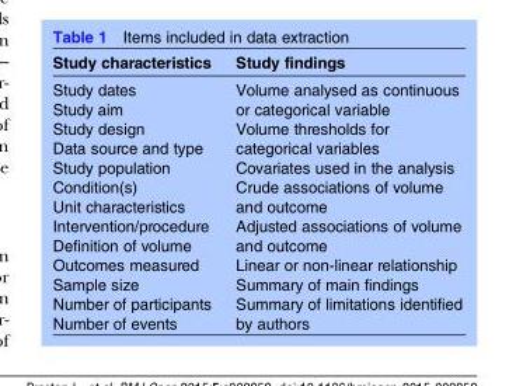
<table><thead><tr><td>Study characteristics</td><td>Study findings</td></tr></thead><tbody><tr><td>Study dates Study aim Study design Data source and type Study population Condition(s) Unit characteristics Intervention/procedure Definition of volume Outcomes measured Sample size Number of participants Number of events</td><td>Volume analysed as continuous or categorical variable Volume thresholds for categorical variables Covariates used in the analysis Crude associations of volume and outcome Adjusted associations of volume and outcome Linear or non-linear relationship Summary of main findings Summary of limitations identified by authors</td></tr></tbody></table>